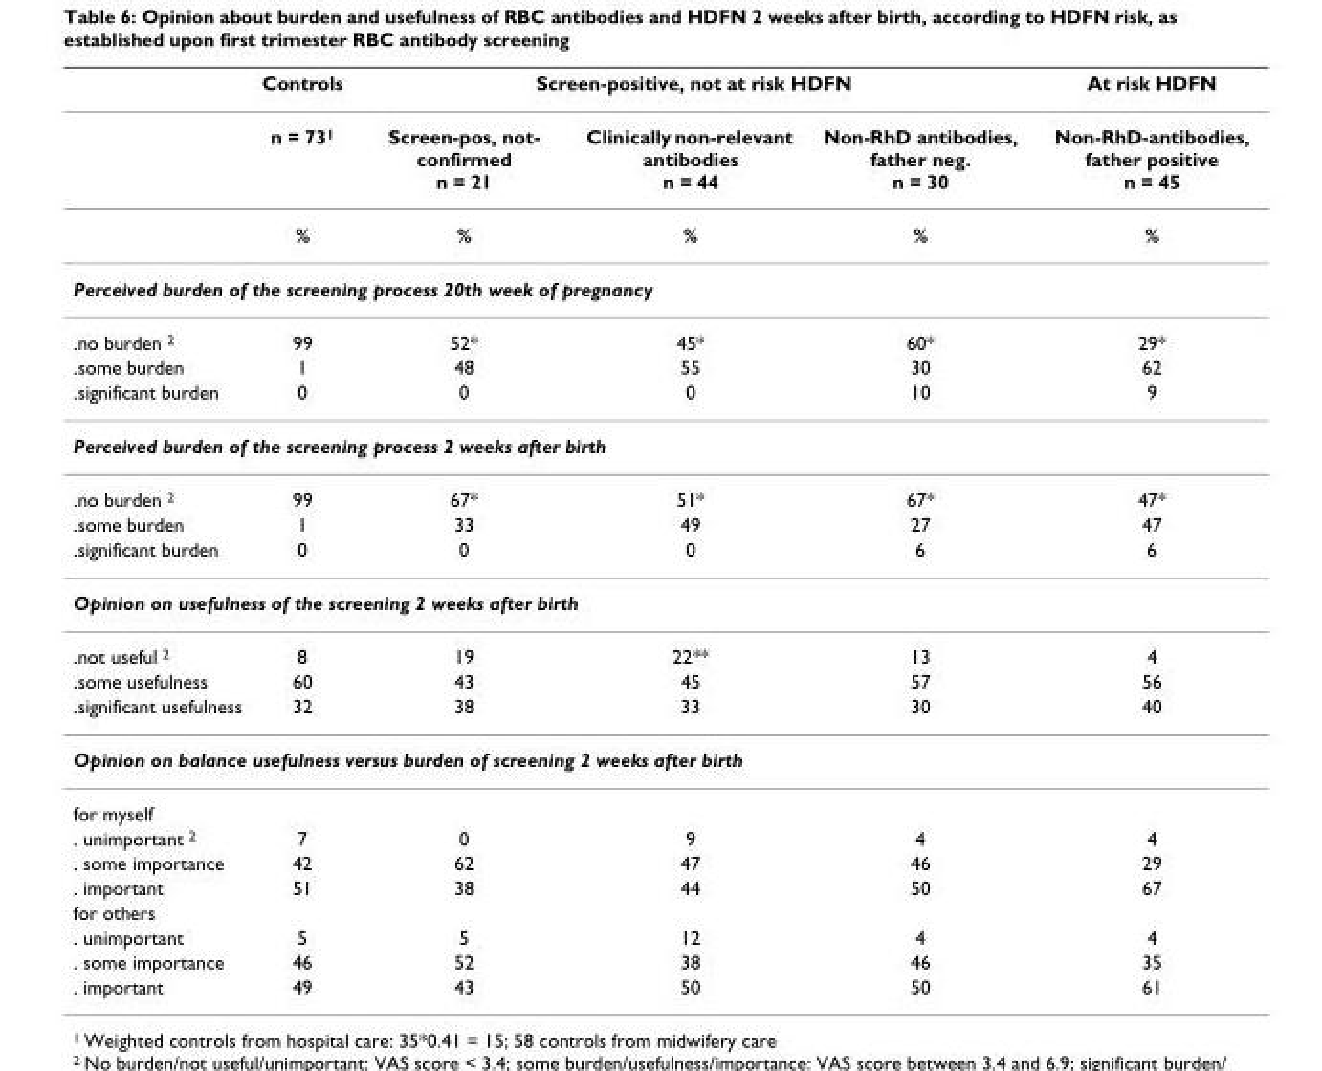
<table><thead><tr><td rowspan="2"></td><td rowspan="2">Controls n = 731</td><td colspan="3">Screen-positive, not at risk HDFN</td><td rowspan="2">At risk HDFN Non-RhD-antibodies, father positive n = 45</td></tr><tr><td>Screen-pos, not- confirmed n = 21</td><td>Clinically non-relevant antibodies n = 44</td><td>Non-RhD antibodies, father neg. n = 30</td></tr></thead><tbody><tr><td></td><td>%</td><td>%</td><td>%</td><td>%</td><td>%</td></tr><tr><td colspan="6">Perceived burden of the screening process 20th week of pregnancy</td></tr><tr><td>.no burden 2</td><td>99</td><td>52*</td><td>45*</td><td>60*</td><td>29*</td></tr><tr><td>.some burden</td><td>1</td><td>48</td><td>55</td><td>30</td><td>62</td></tr><tr><td>.significant burden</td><td>0</td><td>0</td><td>0</td><td>10</td><td>9</td></tr><tr><td colspan="6">Perceived burden of the screening process 2 weeks after birth</td></tr><tr><td>.no burden 2</td><td>99</td><td>67*</td><td>51*</td><td>67*</td><td>47*</td></tr><tr><td>.some burden</td><td>1</td><td>33</td><td>49</td><td>27</td><td>47</td></tr><tr><td>.significant burden</td><td>0</td><td>0</td><td>0</td><td>6</td><td>6</td></tr><tr><td colspan="6">Opinion on usefulness of the screening 2 weeks after birth</td></tr><tr><td>.not useful 2</td><td>8</td><td>19</td><td>22**</td><td>13</td><td>4</td></tr><tr><td>.some usefulness</td><td>60</td><td>43</td><td>45</td><td>57</td><td>56</td></tr><tr><td>.significant usefulness</td><td>32</td><td>38</td><td>33</td><td>30</td><td>40</td></tr><tr><td colspan="6">Opinion on balance usefulness versus burden of screening 2 weeks after birth</td></tr><tr><td colspan="6">for myself</td></tr><tr><td>. unimportant 2</td><td>7</td><td>0</td><td>9</td><td>4</td><td>4</td></tr><tr><td>. some importance</td><td>42</td><td>62</td><td>47</td><td>46</td><td>29</td></tr><tr><td>. important</td><td>51</td><td>38</td><td>44</td><td>50</td><td>67</td></tr><tr><td colspan="6">for others</td></tr><tr><td>. unimportant</td><td>5</td><td>5</td><td>12</td><td>4</td><td>4</td></tr><tr><td>. some importance</td><td>46</td><td>52</td><td>38</td><td>46</td><td>35</td></tr><tr><td>. important</td><td>49</td><td>43</td><td>50</td><td>50</td><td>61</td></tr></tbody></table>